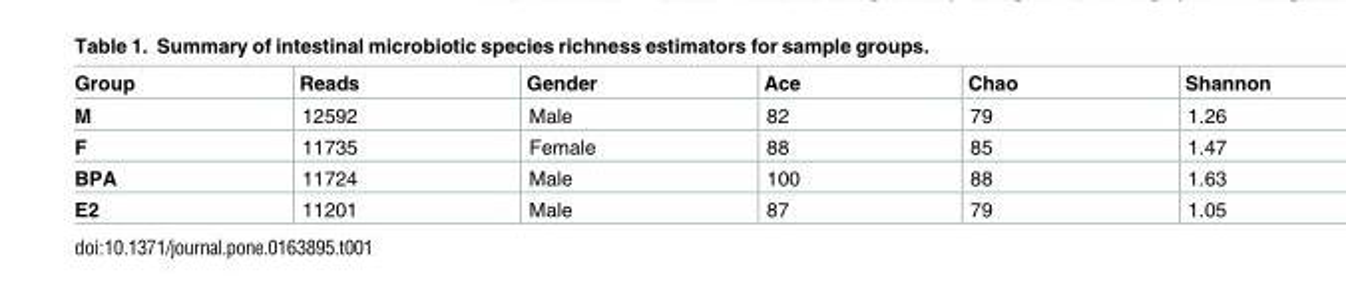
<table><thead><tr><td>Group</td><td>Reads</td><td>Gender</td><td>Ace</td><td>Chao</td><td>Shannon</td></tr></thead><tbody><tr><td>M</td><td>12592</td><td>Male</td><td>82</td><td>79</td><td>1.26</td></tr><tr><td>F</td><td>11735</td><td>Female</td><td>88</td><td>85</td><td>1.47</td></tr><tr><td>BPA</td><td>11724</td><td>Male</td><td>100</td><td>88</td><td>1.63</td></tr><tr><td>E2</td><td>11201</td><td>Male</td><td>87</td><td>79</td><td>1.05</td></tr></tbody></table>